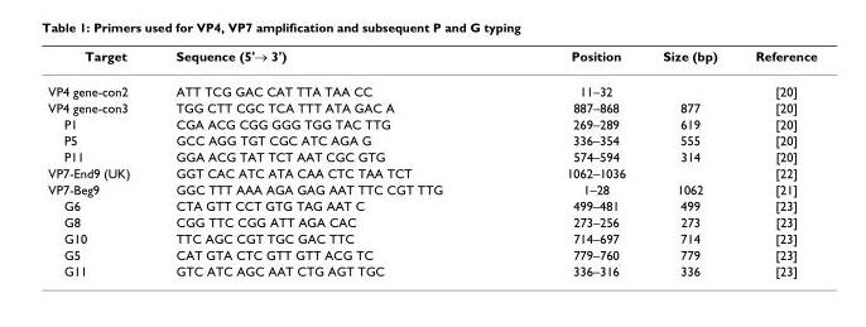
<table><thead><tr><td>Target</td><td>Sequence (5&#x27;→ 3&#x27;)</td><td>Position</td><td>Size (bp)</td><td>Reference</td></tr></thead><tbody><tr><td>VP4 gene-con2</td><td>ATT TCG GAC CAT TTA TAA CC</td><td>11–32</td><td></td><td>[20]</td></tr><tr><td>VP4 gene-con3</td><td>TGG CTT CGC TCA TTT ATA GAC A</td><td>887–868</td><td>877</td><td>[20]</td></tr><tr><td>P1</td><td>CGA ACG CGG GGG TGG TAC TTG</td><td>269–289</td><td>619</td><td>[20]</td></tr><tr><td>P5</td><td>GCC AGG TGT CGC ATC AGA G</td><td>336–354</td><td>555</td><td>[20]</td></tr><tr><td>P11</td><td>GGA ACG TAT TCT AAT CGC GTG</td><td>574–594</td><td>314</td><td>[20]</td></tr><tr><td>VP7-End9 (UK)</td><td>GGT CAC ATC ATA CAA CTC TAA TCT</td><td>1062–1036</td><td></td><td>[22]</td></tr><tr><td>VP7-Beg9</td><td>GGC TTT AAA AGA GAG AAT TTC CGT TTG</td><td>1–28</td><td>1062</td><td>[21]</td></tr><tr><td>G6</td><td>CTA GTT CCT GTG TAG AAT C</td><td>499–481</td><td>499</td><td>[23]</td></tr><tr><td>G8</td><td>CGG TTC CGG ATT AGA CAC</td><td>273–256</td><td>273</td><td>[23]</td></tr><tr><td>G10</td><td>TTC AGC CGT TGC GAC TTC</td><td>714–697</td><td>714</td><td>[23]</td></tr><tr><td>G5</td><td>CAT GTA CTC GTT GTT ACG TC</td><td>779–760</td><td>779</td><td>[23]</td></tr><tr><td>G11</td><td>GTC ATC AGC AAT CTG AGT TGC</td><td>336–316</td><td>336</td><td>[23]</td></tr></tbody></table>